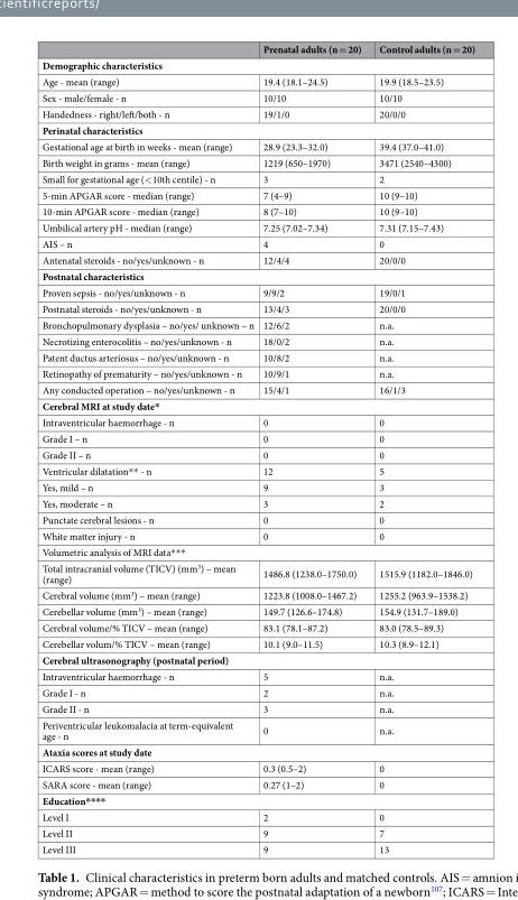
<table><thead><tr><td></td><td>Prenatal adults (n = 20)</td><td>Control adults (n = 20)</td></tr></thead><tbody><tr><td colspan="3">Demographic characteristics</td></tr><tr><td>Age - mean (range)</td><td>19.4 (18.1–24.5)</td><td>19.9 (18.5–23.5)</td></tr><tr><td>Sex - male/female - n</td><td>10/10</td><td>10/10</td></tr><tr><td>Handedness - right/left/both - n</td><td>19/1/0</td><td>20/0/0</td></tr><tr><td colspan="3">Perinatal characteristics</td></tr><tr><td>Gestational age at birth in weeks - mean (range)</td><td>28.9 (23.3–32.0)</td><td>39.4 (37.0–41.0)</td></tr><tr><td>Birth weight in grams - mean (range)</td><td>1219 (650–1970)</td><td>3471 (2540–4300)</td></tr><tr><td>Small for gestational age (&lt;10th centile) - n</td><td>3</td><td>2</td></tr><tr><td>5-min APGAR score - median (range)</td><td>7 (4–9)</td><td>10 (9–10)</td></tr><tr><td>10-min APGAR score - median (range)</td><td>8 (7–10)</td><td>10 (9–10)</td></tr><tr><td>Umbilical artery pH - median (range)</td><td>7.25 (7.02–7.34)</td><td>7.31 (7.15–7.43)</td></tr><tr><td>AIS – n</td><td>4</td><td>0</td></tr><tr><td>Antenatal steroids - no/yes/unknown - n</td><td>12/4/4</td><td>20/0/0</td></tr><tr><td colspan="3">Postnatal characteristics</td></tr><tr><td>Proven sepsis - no/yes/unknown - n</td><td>9/9/2</td><td>19/0/1</td></tr><tr><td>Postnatal steroids - no/yes/unknown - n</td><td>13/4/3</td><td>20/0/0</td></tr><tr><td>Bronchopulmonary dysplasia – no/yes/ unknown – n</td><td>12/6/2</td><td>n.a.</td></tr><tr><td>Necrotizing enterocolitis – no/yes/unknown - n</td><td>18/0/2</td><td>n.a.</td></tr><tr><td>Patent ductus arteriosus – no/yes/unknown - n</td><td>10/8/2</td><td>n.a.</td></tr><tr><td>Retinopathy of prematurity – no/yes/unknown - n</td><td>10/9/1</td><td>n.a.</td></tr><tr><td>Any conducted operation – no/yes/unknown - n</td><td>15/4/1</td><td>16/1/3</td></tr><tr><td colspan="3">Cerebral MRI at study date*</td></tr><tr><td>Intraventricular haemorrhage - n</td><td>0</td><td>0</td></tr><tr><td>Grade I – n</td><td>0</td><td>0</td></tr><tr><td>Grade II – n</td><td>0</td><td>0</td></tr><tr><td>Ventricular dilatation** - n</td><td>12</td><td>5</td></tr><tr><td>Yes, mild – n</td><td>9</td><td>3</td></tr><tr><td>Yes, moderate – n</td><td>3</td><td>2</td></tr><tr><td>Punctate cerebral lesions - n</td><td>0</td><td>0</td></tr><tr><td>White matter injury - n</td><td>0</td><td>0</td></tr><tr><td colspan="3">Volumetric analysis of MRI data***</td></tr><tr><td>Total intracranial volume (TICV) (mm<sup>3</sup>) – mean (range)</td><td>1486.8 (1238.0–1750.0)</td><td>1515.9 (1182.0–1846.0)</td></tr><tr><td>Cerebral volume (mm<sup>3</sup>) – mean (range)</td><td>1223.8 (1008.0–1467.2)</td><td>1255.2 (963.9–1538.2)</td></tr><tr><td>Cerebellar volume (mm<sup>3</sup>) – mean (range)</td><td>149.7 (126.6–174.8)</td><td>154.9 (131.7–189.0)</td></tr><tr><td>Cerebral volume/% TICV – mean (range)</td><td>83.1 (78.1–87.2)</td><td>83.0 (78.5–89.3)</td></tr><tr><td>Cerebellar volum/% TICV – mean (range)</td><td>10.1 (9.0–11.5)</td><td>10.3 (8.9–12.1)</td></tr><tr><td colspan="3">Cerebral ultrasonography (postnatal period)</td></tr><tr><td>Intraventricular haemorrhage - n</td><td>5</td><td>n.a.</td></tr><tr><td>Grade I - n</td><td>2</td><td>n.a.</td></tr><tr><td>Grade II - n</td><td>3</td><td>n.a.</td></tr><tr><td>Periventricular leukomalacia at term-equivalent age - n</td><td>0</td><td>n.a.</td></tr><tr><td colspan="3">Ataxia scores at study date</td></tr><tr><td>ICARS score - mean (range)</td><td>0.3 (0.5–2)</td><td>0</td></tr><tr><td>SARA score - mean (range)</td><td>0.27 (1–2)</td><td>0</td></tr><tr><td colspan="3">Education****</td></tr><tr><td>Level I</td><td>2</td><td>0</td></tr><tr><td>Level II</td><td>9</td><td>7</td></tr><tr><td>Level III</td><td>9</td><td>13</td></tr></tbody></table>